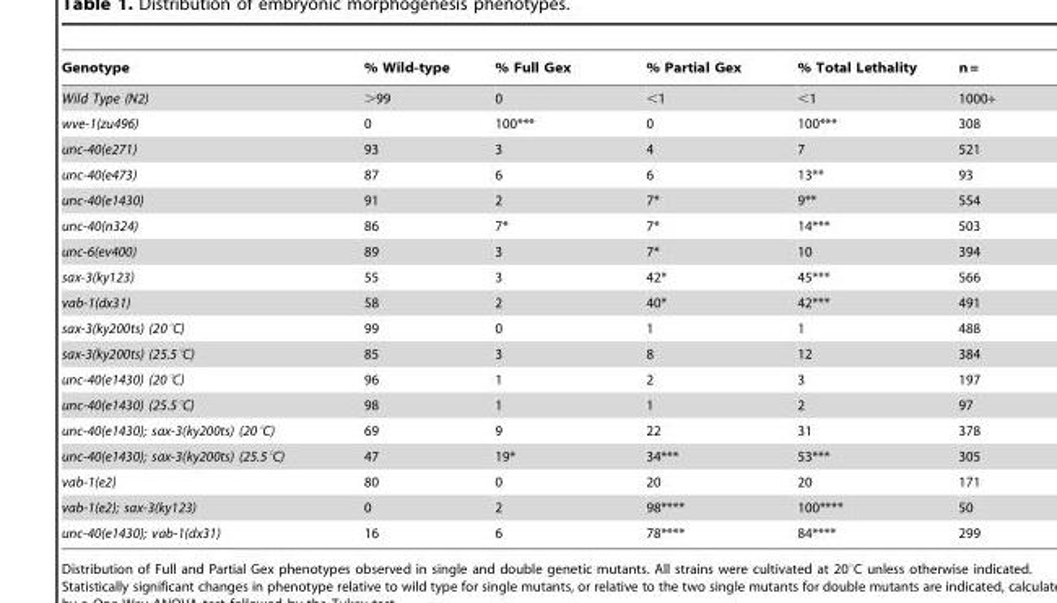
<table><thead><tr><td>Genotype</td><td>% Wild-type</td><td>% Full Gex</td><td>% Partial Gex</td><td>% Total Lethality</td><td>n =</td></tr></thead><tbody><tr><td>Wild Type (N2)</td><td>&gt;99</td><td>0</td><td>&lt;1</td><td>&lt;1</td><td>1000+</td></tr><tr><td>wve-1(zu496)</td><td>0</td><td>100***</td><td>0</td><td>100***</td><td>308</td></tr><tr><td>unc-40(e271)</td><td>93</td><td>3</td><td>4</td><td>7</td><td>521</td></tr><tr><td>unc-40(e473)</td><td>87</td><td>6</td><td>6</td><td>13**</td><td>93</td></tr><tr><td>unc-40(e1430)</td><td>91</td><td>2</td><td>7*</td><td>9**</td><td>554</td></tr><tr><td>unc-40(n324)</td><td>86</td><td>7*</td><td>7*</td><td>14***</td><td>503</td></tr><tr><td>unc-6(ev400)</td><td>89</td><td>3</td><td>7*</td><td>10</td><td>394</td></tr><tr><td>sax-3(ky123)</td><td>55</td><td>3</td><td>42*</td><td>45***</td><td>566</td></tr><tr><td>vab-1(dx31)</td><td>58</td><td>2</td><td>40*</td><td>42***</td><td>491</td></tr><tr><td>sax-3(ky200ts) (20°C)</td><td>99</td><td>0</td><td>1</td><td>1</td><td>488</td></tr><tr><td>sax-3(ky200ts) (25.5°C)</td><td>85</td><td>3</td><td>8</td><td>12</td><td>384</td></tr><tr><td>unc-40(e1430) (20°C)</td><td>96</td><td>1</td><td>2</td><td>3</td><td>197</td></tr><tr><td>unc-40(e1430) (25.5°C)</td><td>98</td><td>1</td><td>1</td><td>2</td><td>97</td></tr><tr><td>unc-40(e1430); sax-3(ky200ts) (20°C)</td><td>69</td><td>9</td><td>22</td><td>31</td><td>378</td></tr><tr><td>unc-40(e1430); sax-3(ky200ts) (25.5°C)</td><td>47</td><td>19*</td><td>34***</td><td>53***</td><td>305</td></tr><tr><td>vab-1(e2)</td><td>80</td><td>0</td><td>20</td><td>20</td><td>171</td></tr><tr><td>vab-1(e2); sax-3(ky123)</td><td>0</td><td>2</td><td>98****</td><td>100****</td><td>50</td></tr><tr><td>unc-40(e1430); vab-1(dx31)</td><td>16</td><td>6</td><td>78****</td><td>84****</td><td>299</td></tr></tbody></table>